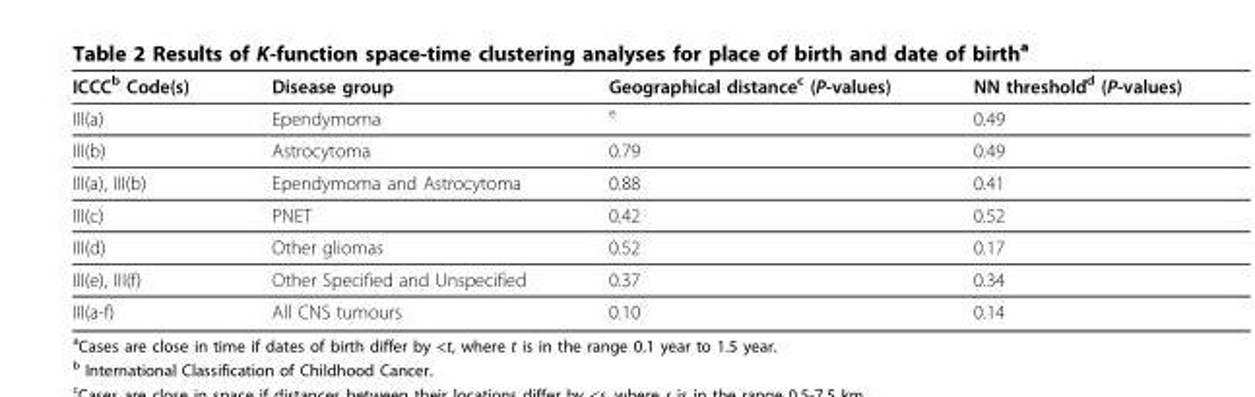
<table><thead><tr><td>ICCC<sup>b</sup> Code(s)</td><td>Disease group</td><td>Geographical distance<sup>c</sup> (P-values)</td><td>NN threshold<sup>d</sup> (P-values)</td></tr></thead><tbody><tr><td>III(a)</td><td>Ependymoma</td><td><sup>e</sup></td><td>0.49</td></tr><tr><td>III(b)</td><td>Astrocytoma</td><td>0.79</td><td>0.49</td></tr><tr><td>III(a), III(b)</td><td>Ependymoma and Astrocytoma</td><td>0.88</td><td>0.41</td></tr><tr><td>III(c)</td><td>PNET</td><td>0.42</td><td>0.52</td></tr><tr><td>III(d)</td><td>Other gliomas</td><td>0.52</td><td>0.17</td></tr><tr><td>III(e), III(f)</td><td>Other Specified and Unspecified</td><td>0.37</td><td>0.34</td></tr><tr><td>III(a-f)</td><td>All CNS tumours</td><td>0.10</td><td>0.14</td></tr></tbody></table>